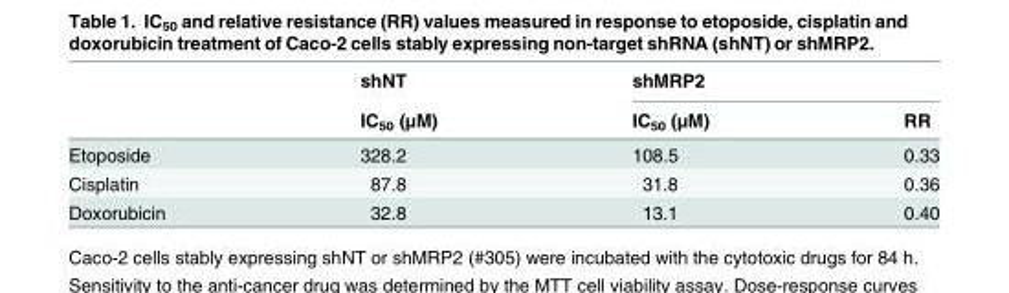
<table><thead><tr><td rowspan="2"></td><td rowspan="2">shNT IC<sub>50</sub> (μM)</td><td colspan="2">shMRP2</td></tr><tr><td>IC<sub>50</sub> (μM)</td><td>RR</td></tr></thead><tbody><tr><td>Etoposide</td><td>328.2</td><td>108.5</td><td>0.33</td></tr><tr><td>Cisplatin</td><td>87.8</td><td>31.8</td><td>0.36</td></tr><tr><td>Doxorubicin</td><td>32.8</td><td>13.1</td><td>0.40</td></tr></tbody></table>